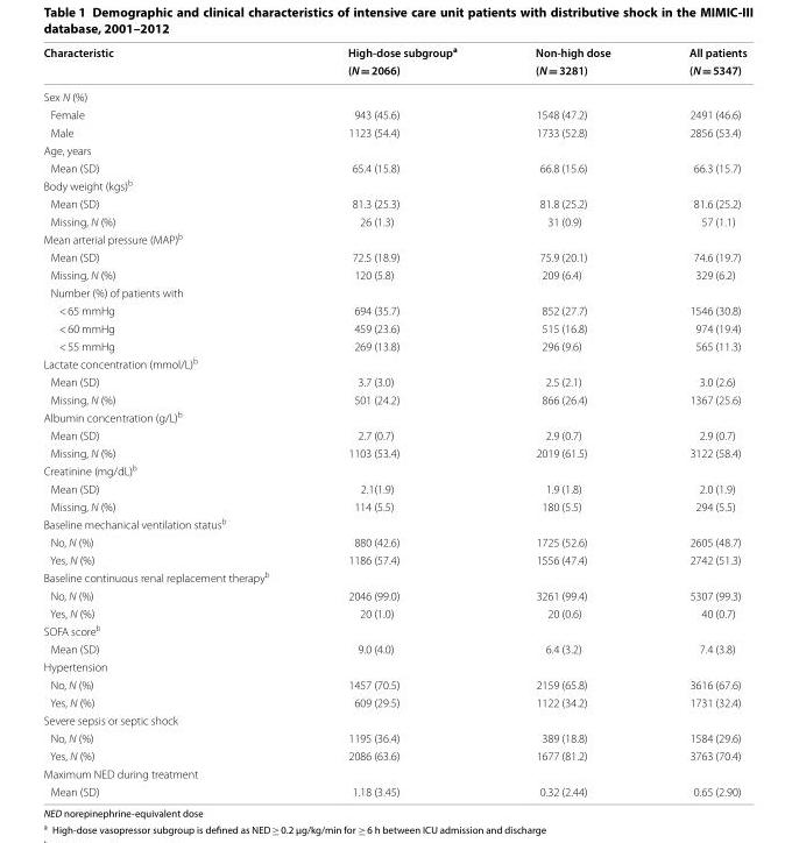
<table><thead><tr><td rowspan="2">Characteristic</td><td rowspan="2">High-dose subgroup<sup>a</sup> (N = 2066)</td><td rowspan="2">Non-high dose (N = 3281)</td><td rowspan="2">All patients (N = 5347)</td></tr><tr></tr></thead><tbody><tr><td colspan="4">Sex N (%)</td></tr><tr><td>Female</td><td>943 (45.6)</td><td>1548 (47.2)</td><td>2491 (46.6)</td></tr><tr><td>Male</td><td>1123 (54.4)</td><td>1733 (52.8)</td><td>2856 (53.4)</td></tr><tr><td colspan="4">Age, years</td></tr><tr><td>Mean (SD)</td><td>65.4 (15.8)</td><td>66.8 (15.6)</td><td>66.3 (15.7)</td></tr><tr><td colspan="4">Body weight (kgs)<sup>b</sup></td></tr><tr><td>Mean (SD)</td><td>81.3 (25.3)</td><td>81.8 (25.2)</td><td>81.6 (25.2)</td></tr><tr><td>Missing, N (%)</td><td>26 (1.3)</td><td>31 (0.9)</td><td>57 (1.1)</td></tr><tr><td colspan="4">Mean arterial pressure (MAP)<sup>b</sup></td></tr><tr><td>Mean (SD)</td><td>72.5 (18.9)</td><td>75.9 (20.1)</td><td>74.6 (19.7)</td></tr><tr><td>Missing, N (%)</td><td>120 (5.8)</td><td>209 (6.4)</td><td>329 (6.2)</td></tr><tr><td colspan="4">Number (%) of patients with</td></tr><tr><td>&lt; 65 mmHg</td><td>694 (35.7)</td><td>852 (27.7)</td><td>1546 (30.8)</td></tr><tr><td>&lt; 60 mmHg</td><td>459 (23.6)</td><td>515 (16.8)</td><td>974 (19.4)</td></tr><tr><td>&lt; 55 mmHg</td><td>269 (13.8)</td><td>296 (9.6)</td><td>565 (11.3)</td></tr><tr><td colspan="4">Lactate concentration (mmol/L)<sup>b</sup></td></tr><tr><td>Mean (SD)</td><td>3.7 (3.0)</td><td>2.5 (2.1)</td><td>3.0 (2.6)</td></tr><tr><td>Missing, N (%)</td><td>501 (24.2)</td><td>866 (26.4)</td><td>1367 (25.6)</td></tr><tr><td colspan="4">Albumin concentration (g/L)<sup>b</sup></td></tr><tr><td>Mean (SD)</td><td>2.7 (0.7)</td><td>2.9 (0.7)</td><td>2.9 (0.7)</td></tr><tr><td>Missing, N (%)</td><td>1103 (53.4)</td><td>2019 (61.5)</td><td>3122 (58.4)</td></tr><tr><td colspan="4">Creatinine (mg/dL)<sup>b</sup></td></tr><tr><td>Mean (SD)</td><td>2.1(1.9)</td><td>1.9 (1.8)</td><td>2.0 (1.9)</td></tr><tr><td>Missing, N (%)</td><td>114 (5.5)</td><td>180 (5.5)</td><td>294 (5.5)</td></tr><tr><td colspan="4">Baseline mechanical ventilation status<sup>b</sup></td></tr><tr><td>No, N (%)</td><td>880 (42.6)</td><td>1725 (52.6)</td><td>2605 (48.7)</td></tr><tr><td>Yes, N (%)</td><td>1186 (57.4)</td><td>1556 (47.4)</td><td>2742 (51.3)</td></tr><tr><td colspan="4">Baseline continuous renal replacement therapy<sup>b</sup></td></tr><tr><td>No, N (%)</td><td>2046 (99.0)</td><td>3261 (99.4)</td><td>5307 (99.3)</td></tr><tr><td>Yes, N (%)</td><td>20 (1.0)</td><td>20 (0.6)</td><td>40 (0.7)</td></tr><tr><td colspan="4">SOFA score<sup>b</sup></td></tr><tr><td>Mean (SD)</td><td>9.0 (4.0)</td><td>6.4 (3.2)</td><td>7.4 (3.8)</td></tr><tr><td colspan="4">Hypertension</td></tr><tr><td>No, N (%)</td><td>1457 (70.5)</td><td>2159 (65.8)</td><td>3616 (67.6)</td></tr><tr><td>Yes, N (%)</td><td>609 (29.5)</td><td>1122 (34.2)</td><td>1731 (32.4)</td></tr><tr><td colspan="4">Severe sepsis or septic shock</td></tr><tr><td>No, N (%)</td><td>1195 (36.4)</td><td>389 (18.8)</td><td>1584 (29.6)</td></tr><tr><td>Yes, N (%)</td><td>2086 (63.6)</td><td>1677 (81.2)</td><td>3763 (70.4)</td></tr><tr><td colspan="4">Maximum NED during treatment</td></tr><tr><td>Mean (SD)</td><td>1.18 (3.45)</td><td>0.32 (2.44)</td><td>0.65 (2.90)</td></tr></tbody></table>